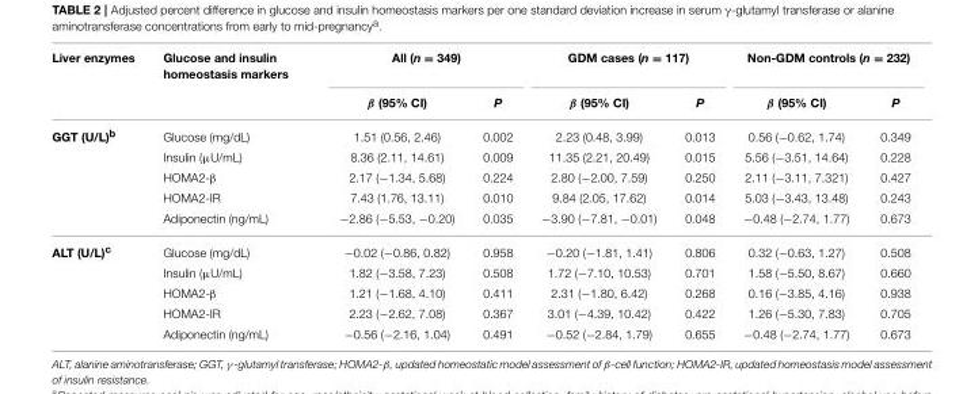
<table><thead><tr><td rowspan="2">Liver enzymes</td><td rowspan="2">Glucose and insulin homeostasis markers</td><td colspan="2">All (n = 349)</td><td colspan="2">GDM cases (n = 117)</td><td colspan="2">Non-GDM controls (n = 232)</td></tr><tr><td>β (95% CI)</td><td>P</td><td>β (95% CI)</td><td>P</td><td>β (95% CI)</td><td>P</td></tr></thead><tbody><tr><td rowspan="5">GGT (U/L)<sup>b</sup></td><td>Glucose (mg/dL)</td><td>1.51 (0.56, 2.46)</td><td>0.002</td><td>2.23 (0.48, 3.99)</td><td>0.013</td><td>0.56 (−0.62, 1.74)</td><td>0.349</td></tr><tr><td>Insulin (µU/mL)</td><td>8.36 (2.11, 14.61)</td><td>0.009</td><td>11.35 (2.21, 20.49)</td><td>0.015</td><td>5.56 (−3.51, 14.64)</td><td>0.228</td></tr><tr><td>HOMA2-β</td><td>2.17 (−1.34, 5.68)</td><td>0.224</td><td>2.80 (−2.00, 7.59)</td><td>0.250</td><td>2.11 (−3.11, 7.321)</td><td>0.427</td></tr><tr><td>HOMA2-IR</td><td>7.43 (1.76, 13.11)</td><td>0.010</td><td>9.84 (2.05, 17.62)</td><td>0.014</td><td>5.03 (−3.43, 13.48)</td><td>0.243</td></tr><tr><td>Adiponectin (ng/mL)</td><td>−2.86 (−5.53, −0.20)</td><td>0.035</td><td>−3.90 (−7.81, −0.01)</td><td>0.048</td><td>−0.48 (−2.74, 1.77)</td><td>0.673</td></tr><tr><td rowspan="5">ALT (U/L)<sup>c</sup></td><td>Glucose (mg/dL)</td><td>−0.02 (−0.86, 0.82)</td><td>0.958</td><td>−0.20 (−1.81, 1.41)</td><td>0.806</td><td>0.32 (−0.63, 1.27)</td><td>0.508</td></tr><tr><td>Insulin (µU/mL)</td><td>1.82 (−3.58, 7.23)</td><td>0.508</td><td>1.72 (−7.10, 10.53)</td><td>0.701</td><td>1.58 (−5.50, 8.67)</td><td>0.660</td></tr><tr><td>HOMA2-β</td><td>1.21 (−1.68, 4.10)</td><td>0.411</td><td>2.31 (−1.80, 6.42)</td><td>0.268</td><td>0.16 (−3.85, 4.16)</td><td>0.938</td></tr><tr><td>HOMA2-IR</td><td>2.23 (−2.62, 7.08)</td><td>0.367</td><td>3.01 (−4.39, 10.42)</td><td>0.422</td><td>1.26 (−5.30, 7.83)</td><td>0.705</td></tr><tr><td>Adiponectin (ng/mL)</td><td>−0.56 (−2.16, 1.04)</td><td>0.491</td><td>−0.52 (−2.84, 1.79)</td><td>0.655</td><td>−0.48 (−2.74, 1.77)</td><td>0.673</td></tr></tbody></table>